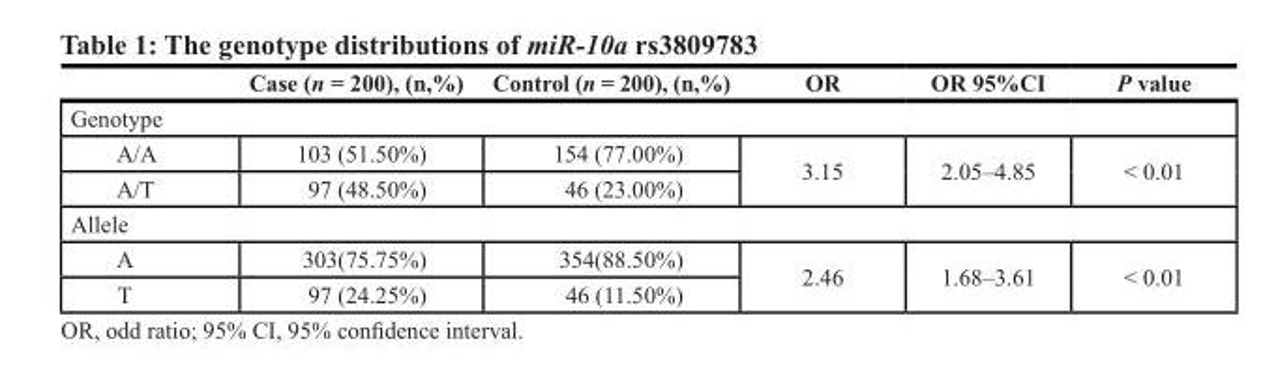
<table><thead><tr><td></td><td>Case (n = 200), (n,%)</td><td>Control (n = 200), (n,%)</td><td>OR</td><td>OR 95%CI</td><td>P value</td></tr></thead><tbody><tr><td colspan="6">Genotype</td></tr><tr><td>A/A</td><td>103 (51.50%)</td><td>154 (77.00%)</td><td rowspan="2">3.15</td><td rowspan="2">2.05–4.85</td><td rowspan="2">&lt; 0.01</td></tr><tr><td>A/T</td><td>97 (48.50%)</td><td>46 (23.00%)</td></tr><tr><td colspan="6">Allele</td></tr><tr><td>A</td><td>303(75.75%)</td><td>354(88.50%)</td><td rowspan="2">2.46</td><td rowspan="2">1.68–3.61</td><td rowspan="2">&lt; 0.01</td></tr><tr><td>T</td><td>97 (24.25%)</td><td>46 (11.50%)</td></tr></tbody></table>